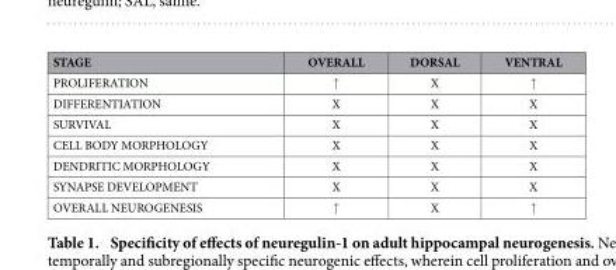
<table><thead><tr><td>STAGE</td><td>OVERALL</td><td>DORSAL</td><td>VENTRAL</td></tr></thead><tbody><tr><td>PROLIFERATION</td><td>↑</td><td>X</td><td>↑</td></tr><tr><td>DIFFERENTIATION</td><td>X</td><td>X</td><td>X</td></tr><tr><td>SURVIVAL</td><td>X</td><td>X</td><td>X</td></tr><tr><td>CELL BODY MORPHOLOGY</td><td>X</td><td>X</td><td>X</td></tr><tr><td>DENDRITIC MORPHOLOGY</td><td>X</td><td>X</td><td>X</td></tr><tr><td>SYNAPSE DEVELOPMENT</td><td>X</td><td>X</td><td>X</td></tr><tr><td>OVERALL NEUROGENESIS</td><td>↑</td><td>X</td><td>↑</td></tr></tbody></table>